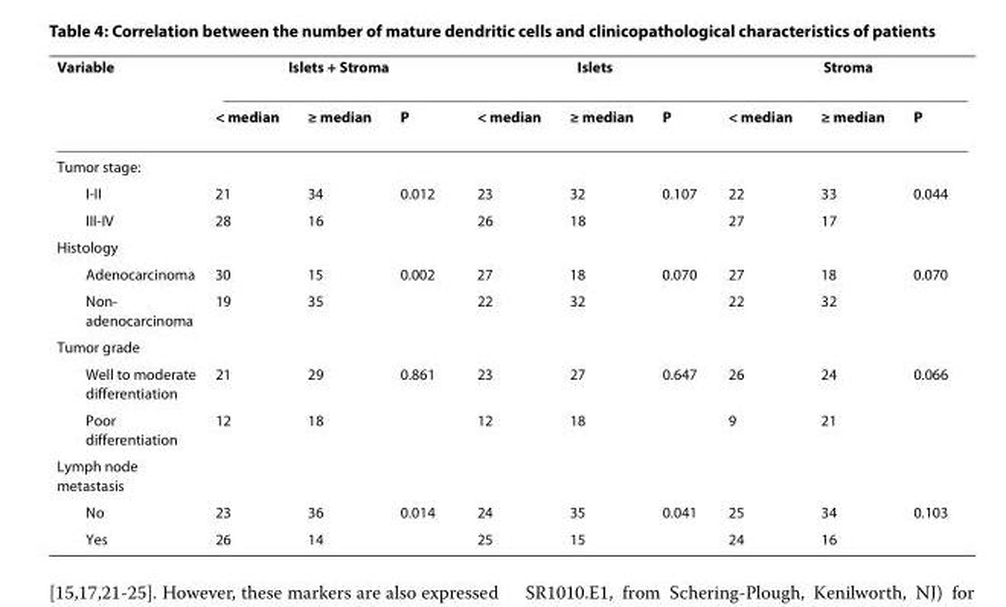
<table><thead><tr><td rowspan="2">Variable</td><td colspan="3">Islets + Stroma</td><td colspan="3">Islets</td><td colspan="3">Stroma</td></tr><tr><td>&lt; median</td><td>≥ median</td><td>P</td><td>&lt; median</td><td>≥ median</td><td>P</td><td>&lt; median</td><td>≥ median</td><td>P</td></tr></thead><tbody><tr><td colspan="10">Tumor stage:</td></tr><tr><td>I-II</td><td>21</td><td>34</td><td>0.012</td><td>23</td><td>32</td><td>0.107</td><td>22</td><td>33</td><td>0.044</td></tr><tr><td>III-IV</td><td>28</td><td>16</td><td></td><td>26</td><td>18</td><td></td><td>27</td><td>17</td><td></td></tr><tr><td colspan="10">Histology</td></tr><tr><td>Adenocarcinoma</td><td>30</td><td>15</td><td>0.002</td><td>27</td><td>18</td><td>0.070</td><td>27</td><td>18</td><td>0.070</td></tr><tr><td>Non- adenocarcinoma</td><td>19</td><td>35</td><td></td><td>22</td><td>32</td><td></td><td>22</td><td>32</td><td></td></tr><tr><td colspan="10">Tumor grade</td></tr><tr><td>Well to moderate differentiation</td><td>21</td><td>29</td><td>0.861</td><td>23</td><td>27</td><td>0.647</td><td>26</td><td>24</td><td>0.066</td></tr><tr><td>Poor differentiation</td><td>12</td><td>18</td><td></td><td>12</td><td>18</td><td></td><td>9</td><td>21</td><td></td></tr><tr><td colspan="10">Lymph node metastasis</td></tr><tr><td>No</td><td>23</td><td>36</td><td>0.014</td><td>24</td><td>35</td><td>0.041</td><td>25</td><td>34</td><td>0.103</td></tr><tr><td>Yes</td><td>26</td><td>14</td><td></td><td>25</td><td>15</td><td></td><td>24</td><td>16</td><td></td></tr></tbody></table>